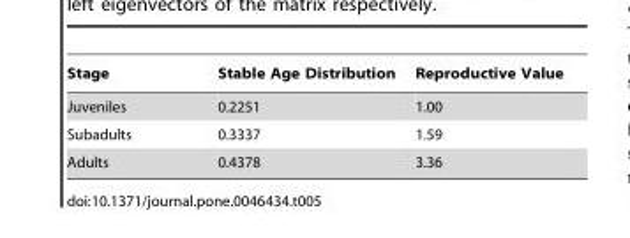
<table><thead><tr><td>Stage</td><td>Stable Age Distribution</td><td>Reproductive Value</td></tr></thead><tbody><tr><td>Juveniles</td><td>0.2251</td><td>1.00</td></tr><tr><td>Subadults</td><td>0.3337</td><td>1.59</td></tr><tr><td>Adults</td><td>0.4378</td><td>3.36</td></tr></tbody></table>